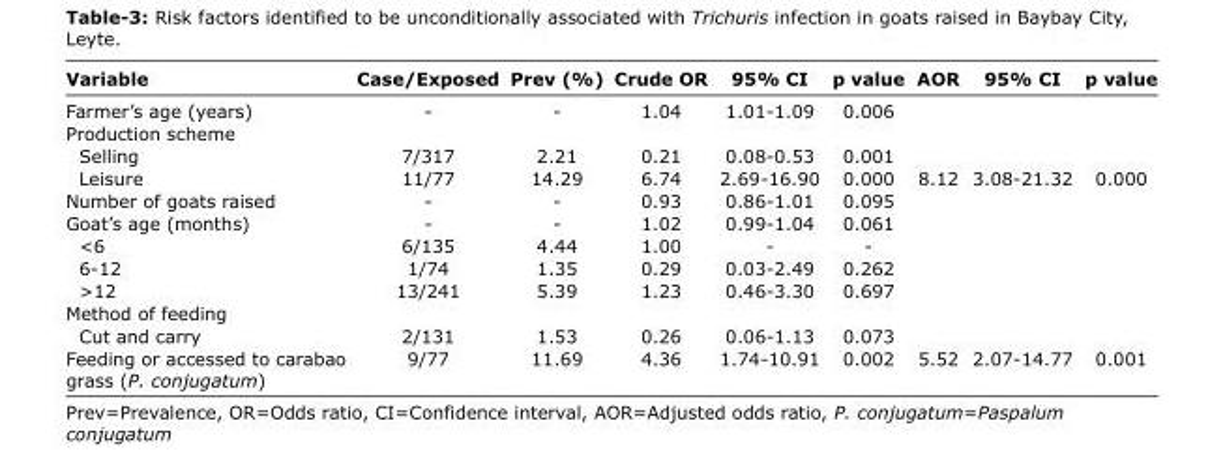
<table><thead><tr><td>Variable</td><td>Case/Exposed</td><td>Prev (%)</td><td>Crude OR</td><td>95% CI</td><td>p value</td><td>AOR</td><td>95% CI</td><td>p value</td></tr></thead><tbody><tr><td>Farmer’s age (years)</td><td>-</td><td>-</td><td>1.04</td><td>1.01-1.09</td><td>0.006</td><td></td><td></td><td></td></tr><tr><td colspan="9">Production scheme</td></tr><tr><td>Selling</td><td>7/317</td><td>2.21</td><td>0.21</td><td>0.08-0.53</td><td>0.001</td><td></td><td></td><td></td></tr><tr><td>Leisure</td><td>11/77</td><td>14.29</td><td>6.74</td><td>2.69-16.90</td><td>0.000</td><td>8.12</td><td>3.08-21.32</td><td>0.000</td></tr><tr><td>Number of goats raised</td><td>-</td><td>-</td><td>0.93</td><td>0.86-1.01</td><td>0.095</td><td></td><td></td><td></td></tr><tr><td>Goat’s age (months)</td><td>-</td><td>-</td><td>1.02</td><td>0.99-1.04</td><td>0.061</td><td></td><td></td><td></td></tr><tr><td>&lt;6</td><td>6/135</td><td>4.44</td><td>1.00</td><td>-</td><td>-</td><td></td><td></td><td></td></tr><tr><td>6-12</td><td>1/74</td><td>1.35</td><td>0.29</td><td>0.03-2.49</td><td>0.262</td><td></td><td></td><td></td></tr><tr><td>&gt;12</td><td>13/241</td><td>5.39</td><td>1.23</td><td>0.46-3.30</td><td>0.697</td><td></td><td></td><td></td></tr><tr><td colspan="9">Method of feeding</td></tr><tr><td>Cut and carry</td><td>2/131</td><td>1.53</td><td>0.26</td><td>0.06-1.13</td><td>0.073</td><td></td><td></td><td></td></tr><tr><td>Feeding or accessed to carabao grass (P. conjugatum)</td><td>9/77</td><td>11.69</td><td>4.36</td><td>1.74-10.91</td><td>0.002</td><td>5.52</td><td>2.07-14.77</td><td>0.001</td></tr></tbody></table>